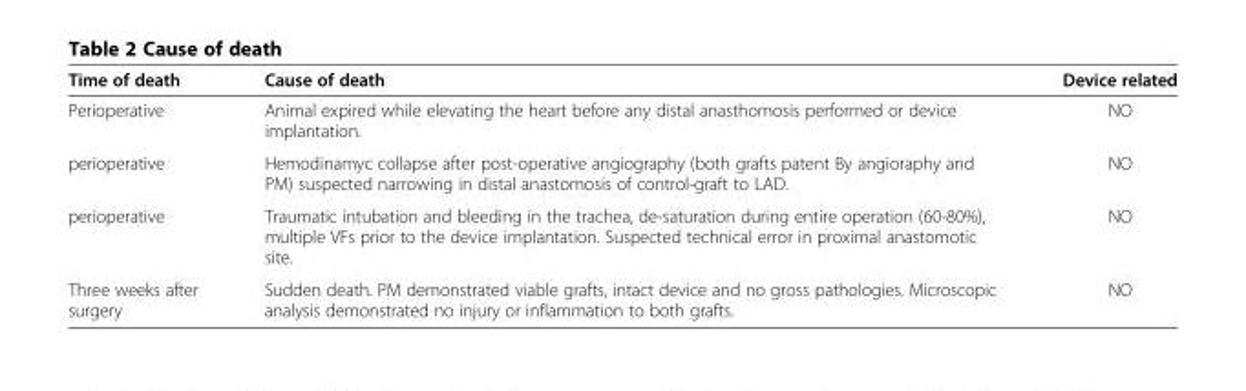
<table><thead><tr><td>Time of death</td><td>Cause of death</td><td>Device related</td></tr></thead><tbody><tr><td>Perioperative</td><td>Animal expired while elevating the heart before any distal anasthomosis performed or device implantation.</td><td>NO</td></tr><tr><td>perioperative</td><td>Hemodinamyc collapse after post-operative angiography (both grafts patent By angioraphy and PM) suspected narrowing in distal anastomosis of control-graft to LAD.</td><td>NO</td></tr><tr><td>perioperative</td><td>Traumatic intubation and bleeding in the trachea, de-saturation during entire operation (60-80%), multiple VFs prior to the device implantation. Suspected technical error in proximal anastomotic site.</td><td>NO</td></tr><tr><td>Three weeks after surgery</td><td>Sudden death. PM demonstrated viable grafts, intact device and no gross pathologies. Microscopic analysis demonstrated no injury or inflammation to both grafts.</td><td>NO</td></tr></tbody></table>